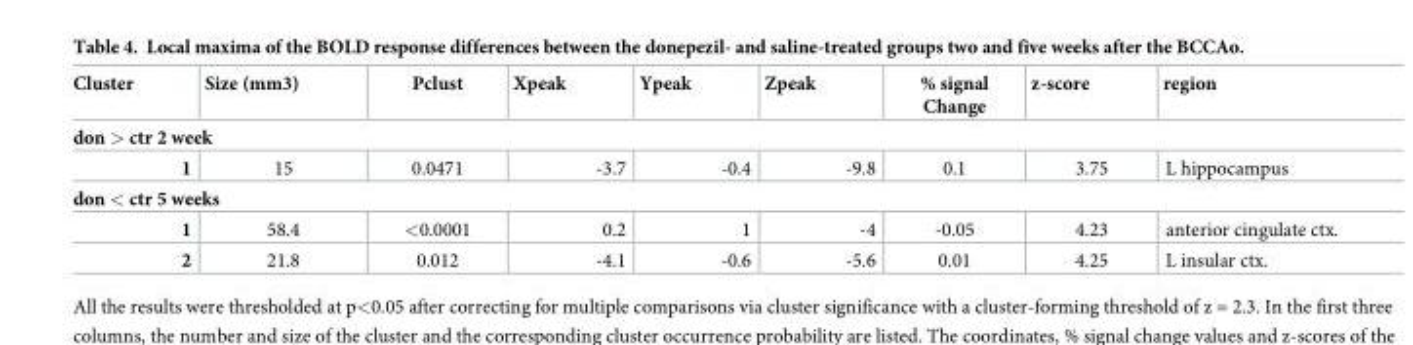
<table><thead><tr><td>Cluster</td><td>Size (mm3)</td><td>Pclust</td><td>Xpeak</td><td>Ypeak</td><td>Zpeak</td><td>% signal Change</td><td>z-score</td><td>region</td></tr></thead><tbody><tr><td colspan="9">don &gt; ctr 2 week</td></tr><tr><td>1</td><td>15</td><td>0.0471</td><td>-3.7</td><td>-0.4</td><td>-9.8</td><td>0.1</td><td>3.75</td><td>L hippocampus</td></tr><tr><td colspan="9">don &lt; ctr 5 weeks</td></tr><tr><td>1</td><td>58.4</td><td>&lt;0.0001</td><td>0.2</td><td>1</td><td>-4</td><td>-0.05</td><td>4.23</td><td>anterior cingulate ctx.</td></tr><tr><td>2</td><td>21.8</td><td>0.012</td><td>-4.1</td><td>-0.6</td><td>-5.6</td><td>0.01</td><td>4.25</td><td>L insular ctx.</td></tr></tbody></table>